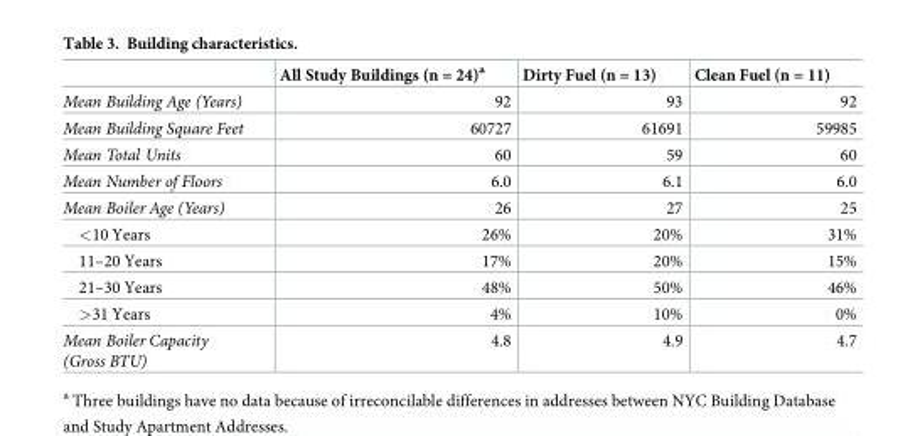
<table><thead><tr><td></td><td>All Study Buildings (n = 24)<sup>a</sup></td><td>Dirty Fuel (n = 13)</td><td>Clean Fuel (n = 11)</td></tr></thead><tbody><tr><td>Mean Building Age (Years)</td><td>92</td><td>93</td><td>92</td></tr><tr><td>Mean Building Square Feet</td><td>60727</td><td>61691</td><td>59985</td></tr><tr><td>Mean Total Units</td><td>60</td><td>59</td><td>60</td></tr><tr><td>Mean Number of Floors</td><td>6.0</td><td>6.1</td><td>6.0</td></tr><tr><td>Mean Boiler Age (Years)</td><td>26</td><td>27</td><td>25</td></tr><tr><td>&lt;10 Years</td><td>26%</td><td>20%</td><td>31%</td></tr><tr><td>11–20 Years</td><td>17%</td><td>20%</td><td>15%</td></tr><tr><td>21–30 Years</td><td>48%</td><td>50%</td><td>46%</td></tr><tr><td>&gt;31 Years</td><td>4%</td><td>10%</td><td>0%</td></tr><tr><td>Mean Boiler Capacity (Gross BTU)</td><td>4.8</td><td>4.9</td><td>4.7</td></tr></tbody></table>